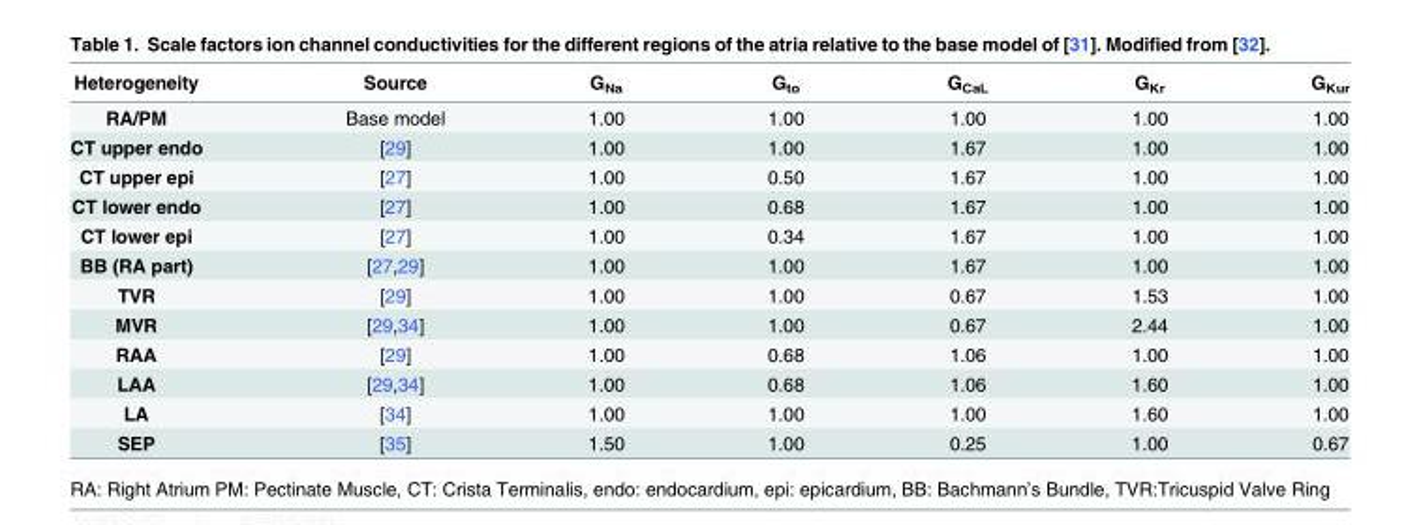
<table><thead><tr><td>Heterogeneity</td><td>Source</td><td>G<sub>Na</sub></td><td>G<sub>to</sub></td><td>G<sub>CaL</sub></td><td>G<sub>Kr</sub></td><td>G<sub>Kur</sub></td></tr></thead><tbody><tr><td>RA/PM</td><td>Base model</td><td>1.00</td><td>1.00</td><td>1.00</td><td>1.00</td><td>1.00</td></tr><tr><td>CT upper endo</td><td>[29]</td><td>1.00</td><td>1.00</td><td>1.67</td><td>1.00</td><td>1.00</td></tr><tr><td>CT upper epi</td><td>[27]</td><td>1.00</td><td>0.50</td><td>1.67</td><td>1.00</td><td>1.00</td></tr><tr><td>CT lower endo</td><td>[27]</td><td>1.00</td><td>0.68</td><td>1.67</td><td>1.00</td><td>1.00</td></tr><tr><td>CT lower epi</td><td>[27]</td><td>1.00</td><td>0.34</td><td>1.67</td><td>1.00</td><td>1.00</td></tr><tr><td>BB (RA part)</td><td>[27,29]</td><td>1.00</td><td>1.00</td><td>1.67</td><td>1.00</td><td>1.00</td></tr><tr><td>TVR</td><td>[29]</td><td>1.00</td><td>1.00</td><td>0.67</td><td>1.53</td><td>1.00</td></tr><tr><td>MVR</td><td>[29,34]</td><td>1.00</td><td>1.00</td><td>0.67</td><td>2.44</td><td>1.00</td></tr><tr><td>RAA</td><td>[29]</td><td>1.00</td><td>0.68</td><td>1.06</td><td>1.00</td><td>1.00</td></tr><tr><td>LAA</td><td>[29,34]</td><td>1.00</td><td>0.68</td><td>1.06</td><td>1.60</td><td>1.00</td></tr><tr><td>LA</td><td>[34]</td><td>1.00</td><td>1.00</td><td>1.00</td><td>1.60</td><td>1.00</td></tr><tr><td>SEP</td><td>[35]</td><td>1.50</td><td>1.00</td><td>0.25</td><td>1.00</td><td>0.67</td></tr></tbody></table>